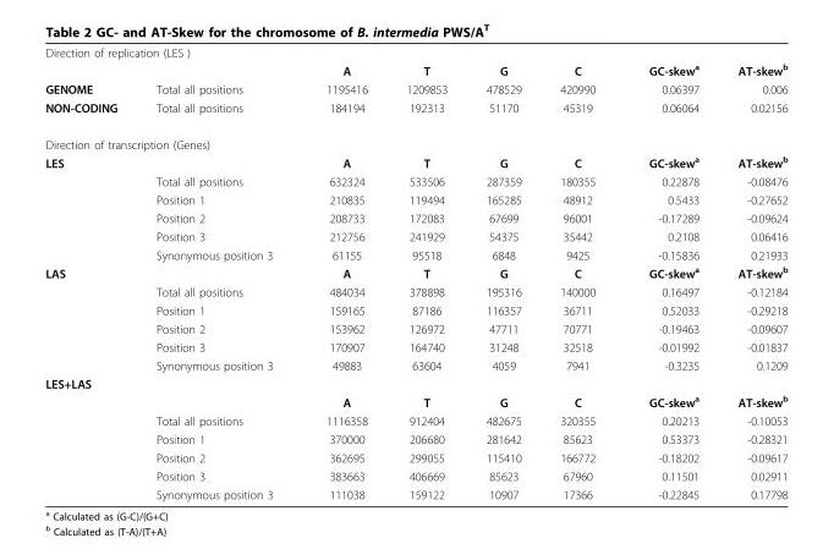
<table><tbody><tr><td colspan="8">Direction of replication (LES )</td></tr><tr><td></td><td></td><td>A</td><td>T</td><td>G</td><td>C</td><td>GC-skew<sup>a</sup></td><td>AT-skew<sup>b</sup></td></tr><tr><td>GENOME</td><td>Total all positions</td><td>1195416</td><td>1209853</td><td>478529</td><td>420990</td><td>0.06397</td><td>0.006</td></tr><tr><td>NON-CODING</td><td>Total all positions</td><td>184194</td><td>192313</td><td>51170</td><td>45319</td><td>0.06064</td><td>0.02156</td></tr><tr><td colspan="8">Direction of transcription (Genes)</td></tr><tr><td rowspan="6">LES</td><td></td><td>A</td><td>T</td><td>G</td><td>C</td><td>GC-skew<sup>a</sup></td><td>AT-skew<sup>b</sup></td></tr><tr><td>Total all positions</td><td>632324</td><td>533506</td><td>287359</td><td>180355</td><td>0.22878</td><td>-0.08476</td></tr><tr><td>Position 1</td><td>210835</td><td>119494</td><td>165285</td><td>48912</td><td>0.5433</td><td>-0.27652</td></tr><tr><td>Position 2</td><td>208733</td><td>172083</td><td>67699</td><td>96001</td><td>-0.17289</td><td>-0.09624</td></tr><tr><td>Position 3</td><td>212756</td><td>241929</td><td>54375</td><td>35442</td><td>0.2108</td><td>0.06416</td></tr><tr><td>Synonymous position 3</td><td>61155</td><td>95518</td><td>6848</td><td>9425</td><td>-0.15836</td><td>0.21933</td></tr><tr><td rowspan="6">LAS</td><td></td><td>A</td><td>T</td><td>G</td><td>C</td><td>GC-skew<sup>a</sup></td><td>AT-skew<sup>b</sup></td></tr><tr><td>Total all positions</td><td>484034</td><td>378898</td><td>195316</td><td>140000</td><td>0.16497</td><td>-0.12184</td></tr><tr><td>Position 1</td><td>159165</td><td>87186</td><td>116357</td><td>36711</td><td>0.52033</td><td>-0.29218</td></tr><tr><td>Position 2</td><td>153962</td><td>126972</td><td>47711</td><td>70771</td><td>-0.19463</td><td>-0.09607</td></tr><tr><td>Position 3</td><td>170907</td><td>164740</td><td>31248</td><td>32518</td><td>-0.01992</td><td>-0.01837</td></tr><tr><td>Synonymous position 3</td><td>49883</td><td>63604</td><td>4059</td><td>7941</td><td>-0.3235</td><td>0.1209</td></tr><tr><td colspan="8">LES+LAS</td></tr><tr><td></td><td></td><td>A</td><td>T</td><td>G</td><td>C</td><td>GC-skew<sup>a</sup></td><td>AT-skew<sup>b</sup></td></tr><tr><td></td><td>Total all positions</td><td>1116358</td><td>912404</td><td>482675</td><td>320355</td><td>0.20213</td><td>-0.10053</td></tr><tr><td></td><td>Position 1</td><td>370000</td><td>206680</td><td>281642</td><td>85623</td><td>0.53373</td><td>-0.28321</td></tr><tr><td></td><td>Position 2</td><td>362695</td><td>299055</td><td>115410</td><td>166772</td><td>-0.18202</td><td>-0.09617</td></tr><tr><td></td><td>Position 3</td><td>383663</td><td>406669</td><td>85623</td><td>67960</td><td>0.11501</td><td>0.02911</td></tr><tr><td></td><td>Synonymous position 3</td><td>111038</td><td>159122</td><td>10907</td><td>17366</td><td>-0.22845</td><td>0.17798</td></tr></tbody></table>